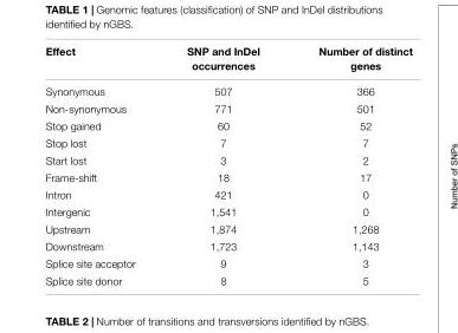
<table><thead><tr><td>Effect</td><td>SNP and InDel occurrences</td><td>Number of distinct genes</td></tr></thead><tbody><tr><td>Synonymous</td><td>507</td><td>366</td></tr><tr><td>Non-synonymous</td><td>771</td><td>501</td></tr><tr><td>Stop gained</td><td>60</td><td>52</td></tr><tr><td>Stop lost</td><td>7</td><td>7</td></tr><tr><td>Start lost</td><td>3</td><td>2</td></tr><tr><td>Frame-shift</td><td>18</td><td>17</td></tr><tr><td>Intron</td><td>421</td><td>0</td></tr><tr><td>Intergenic</td><td>1,541</td><td>0</td></tr><tr><td>Upstream</td><td>1,874</td><td>1,268</td></tr><tr><td>Downstream</td><td>1,723</td><td>1,143</td></tr><tr><td>Splice site acceptor</td><td>9</td><td>3</td></tr><tr><td>Splice site donor</td><td>8</td><td>5</td></tr></tbody></table>